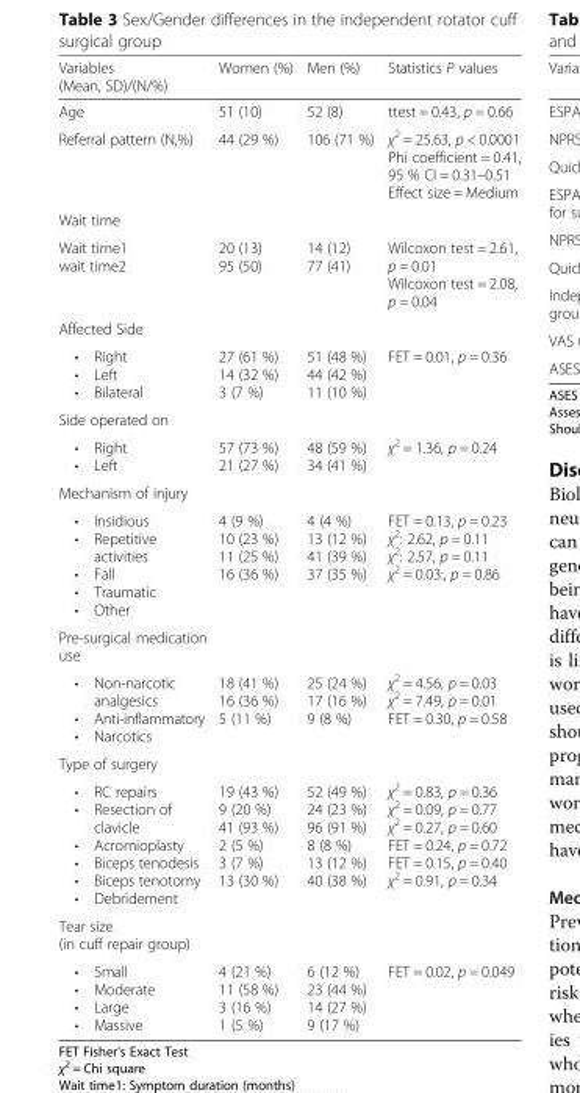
<table><thead><tr><td>Variables (Mean, SD)/(N/%)</td><td>Women (%)</td><td>Men (%)</td><td>Statistics P values</td></tr></thead><tbody><tr><td>Age</td><td>51 (10)</td><td>52 (8)</td><td>ttest = 0.43, p = 0.66</td></tr><tr><td>Referral pattern (N,%)</td><td>44 (29 %)</td><td>106 (71 %)</td><td>χ<sup>2</sup> = 25.63, p &lt; 0.0001 Phi coefficient = 0.41, 95 % CI = 0.31–0.51 Effect size = Medium</td></tr><tr><td colspan="4">Wait time</td></tr><tr><td>Wait time1 wait time2</td><td>20 (13) 95 (50)</td><td>14 (12) 77 (41)</td><td>Wilcoxon test = 2.61, p = 0.01 Wilcoxon test = 2.08, p = 0.04</td></tr><tr><td colspan="4">Affected Side</td></tr><tr><td>• Right • Left • Bilateral</td><td>27 (61 %) 14 (32 %) 3 (7 %)</td><td>51 (48 %) 44 (42 %) 11 (10 %)</td><td>FET = 0.01, p = 0.36</td></tr><tr><td colspan="4">Side operated on</td></tr><tr><td>• Right • Left</td><td>57 (73 %) 21 (27 %)</td><td>48 (59 %) 34 (41 %)</td><td>χ<sup>2</sup> = 1.36, p = 0.24</td></tr><tr><td colspan="4">Mechanism of injury</td></tr><tr><td>• Insidious • Repetitive activities • Fall • Traumatic • Other</td><td>4 (9 %) 10 (23 %) 11 (25 %) 16 (36 %)</td><td>4 (4 %) 13 (12 %) 41 (39 %) 37 (35 %)</td><td>FET = 0.13, p = 0.23 χ<sup>2</sup>: 2.62, p = 0.11 χ<sup>2</sup>: 2.57, p = 0.11 χ<sup>2</sup> = 0.03:, p = 0.86</td></tr><tr><td colspan="4">Pre-surgical medication use</td></tr><tr><td>• Non-narcotic analgesics • Anti-inflammatory • Narcotics</td><td>18 (41 %) 16 (36 %) 5 (11 %)</td><td>25 (24 %) 17 (16 %) 9 (8 %)</td><td>χ<sup>2</sup> = 4.56, p = 0.03 χ<sup>2</sup> = 7.49, p = 0.01 FET = 0.30, p = 0.58</td></tr><tr><td colspan="4">Type of surgery</td></tr><tr><td>• RC repairs • Resection of clavicle • Acromioplasty • Biceps tenodesis • Biceps tenotomy • Debridement</td><td>19 (43 %) 9 (20 %) 41 (93 %) 2 (5 %) 3 (7 %) 13 (30 %)</td><td>52 (49 %) 24 (23 %) 96 (91 %) 8 (8 %) 13 (12 %) 40 (38 %)</td><td>χ<sup>2</sup> = 0.83, p = 0.36 χ<sup>2</sup> = 0.09, p = 0.77 χ<sup>2</sup> = 0.27, p = 0.60 FET = 0.24, p = 0.72 FET = 0.15, p = 0.40 χ<sup>2</sup> = 0.91, p = 0.34</td></tr><tr><td colspan="4">Tear size (in cuff repair group)</td></tr><tr><td>• Small • Moderate • Large • Massive</td><td>4 (21 %) 11 (58 %) 3 (16 %) 1 (5 %)</td><td>6 (12 %) 23 (44 %) 14 (27 %) 9 (17 %)</td><td>FET = 0.02, p = 0.049</td></tr></tbody></table>